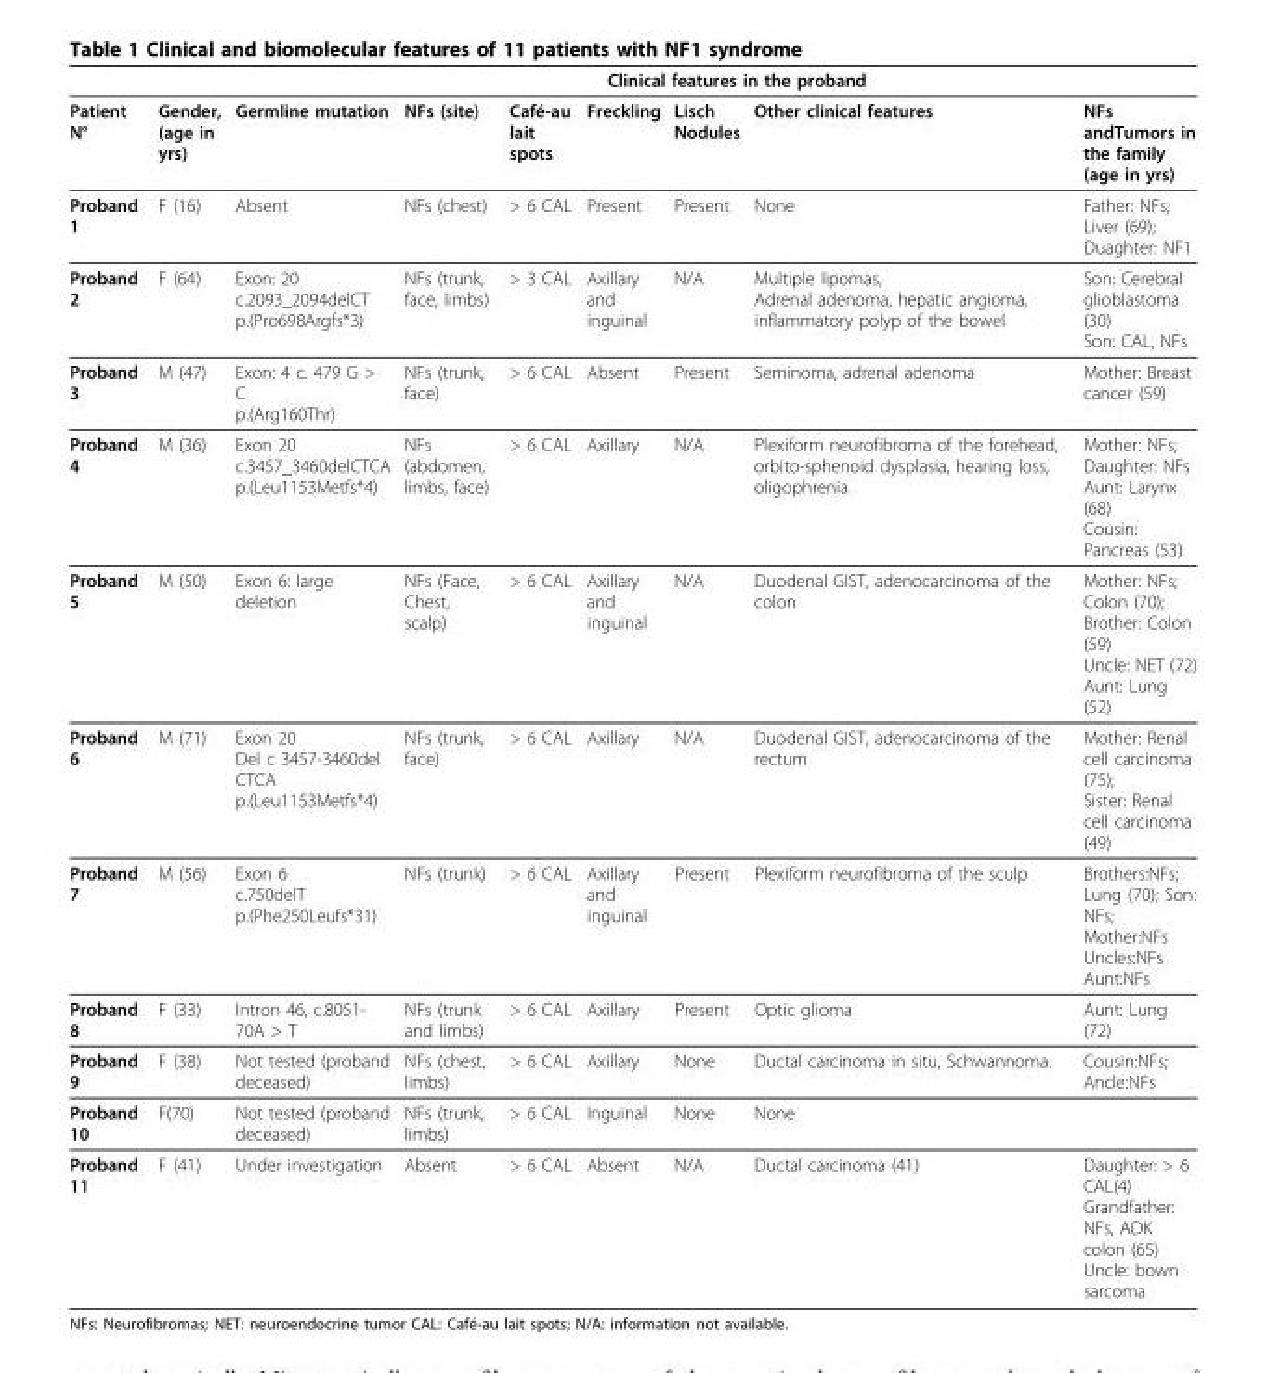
<table><thead><tr><td rowspan="2">Patient N°</td><td rowspan="2">Gender, (age in yrs)</td><td rowspan="2">Germline mutation</td><td colspan="5">Clinical features in the proband</td><td rowspan="2">NFs andTumors in the family (age in yrs)</td></tr><tr><td>NFs (site)</td><td>Café-au lait spots</td><td>Freckling</td><td>Lisch Nodules</td><td>Other clinical features</td></tr></thead><tbody><tr><td>Proband 1</td><td>F (16)</td><td>Absent</td><td>NFs (chest)</td><td>&gt; 6 CAL</td><td>Present</td><td>Present</td><td>None</td><td>Father: NFs; Liver (69); Duaghter: NF1</td></tr><tr><td>Proband 2</td><td>F (64)</td><td>Exon: 20 c.2093_2094delCT p.(Pro698Argfs*3)</td><td>NFs (trunk, face, limbs)</td><td>&gt; 3 CAL</td><td>Axillary and inguinal</td><td>N/A</td><td>Multiple lipomas, Adrenal adenoma, hepatic angioma, inflammatory polyp of the bowel</td><td>Son: Cerebral glioblastoma (30) Son: CAL, NFs</td></tr><tr><td>Proband 3</td><td>M (47)</td><td>Exon: 4 c. 479 G &gt; C p.(Arg160Thr)</td><td>NFs (trunk, face)</td><td>&gt; 6 CAL</td><td>Absent</td><td>Present</td><td>Seminoma, adrenal adenoma</td><td>Mother: Breast cancer (59)</td></tr><tr><td>Proband 4</td><td>M (36)</td><td>Exon 20 c.3457_3460delCTCA p.(Leu1153Metfs*4)</td><td>NFs (abdomen, limbs, face)</td><td>&gt; 6 CAL</td><td>Axillary</td><td>N/A</td><td>Plexiform neurofibroma of the forehead, orbito-sphenoid dysplasia, hearing loss, oligophrenia</td><td>Mother: NFs; Daughter: NFs Aunt: Larynx (68) Cousin: Pancreas (53)</td></tr><tr><td>Proband 5</td><td>M (50)</td><td>Exon 6: large deletion</td><td>NFs (Face, Chest, scalp)</td><td>&gt; 6 CAL</td><td>Axillary and inguinal</td><td>N/A</td><td>Duodenal GIST, adenocarcinoma of the colon</td><td>Mother: NFs; Colon (70); Brother: Colon (59) Uncle: NET (72) Aunt: Lung (52)</td></tr><tr><td>Proband 6</td><td>M (71)</td><td>Exon 20 Del c 3457-3460del CTCA p.(Leu1153Metfs*4)</td><td>NFs (trunk, face)</td><td>&gt; 6 CAL</td><td>Axillary</td><td>N/A</td><td>Duodenal GIST, adenocarcinoma of the rectum</td><td>Mother: Renal cell carcinoma (75); Sister: Renal cell carcinoma (49)</td></tr><tr><td>Proband 7</td><td>M (56)</td><td>Exon 6 c.750delT p.(Phe250Leufs*31)</td><td>NFs (trunk)</td><td>&gt; 6 CAL</td><td>Axillary and inguinal</td><td>Present</td><td>Plexiform neurofibroma of the sculp</td><td>Brothers:NFs; Lung (70); Son: NFs; Mother:NFs Uncles:NFs Aunt:NFs</td></tr><tr><td>Proband 8</td><td>F (33)</td><td>Intron 46, c.8051- 70A &gt; T</td><td>NFs (trunk and limbs)</td><td>&gt; 6 CAL</td><td>Axillary</td><td>Present</td><td>Optic glioma</td><td>Aunt: Lung (72)</td></tr><tr><td>Proband 9</td><td>F (38)</td><td>Not tested (proband deceased)</td><td>NFs (chest, limbs)</td><td>&gt; 6 CAL</td><td>Axillary</td><td>None</td><td>Ductal carcinoma in situ, Schwannoma.</td><td>Cousin:NFs; Ancle:NFs</td></tr><tr><td>Proband 10</td><td>F(70)</td><td>Not tested (proband deceased)</td><td>NFs (trunk, limbs)</td><td>&gt; 6 CAL</td><td>Inguinal</td><td>None</td><td>None</td><td></td></tr><tr><td>Proband 11</td><td>F (41)</td><td>Under investigation</td><td>Absent</td><td>&gt; 6 CAL</td><td>Absent</td><td>N/A</td><td>Ductal carcinoma (41)</td><td>Daughter: &gt; 6 CAL(4) Grandfather: NFs, ADK colon (65) Uncle: bown sarcoma</td></tr></tbody></table>